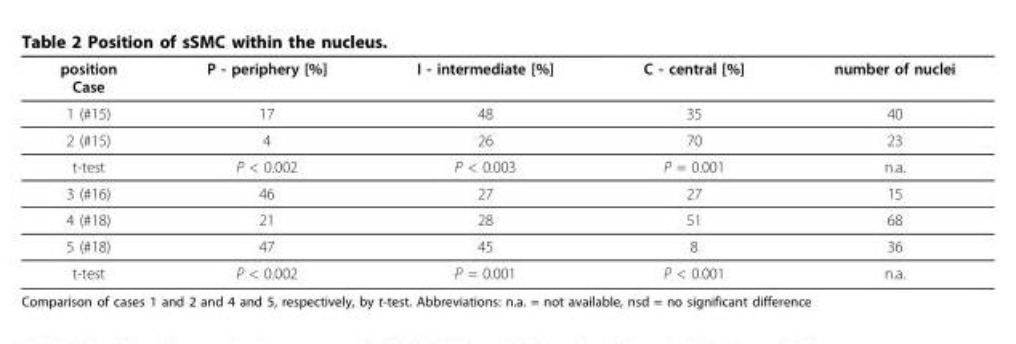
<table><thead><tr><td>position Case</td><td>P - periphery [%]</td><td>I - intermediate [%]</td><td>C - central [%]</td><td>number of nuclei</td></tr></thead><tbody><tr><td>1 (#15)</td><td>17</td><td>48</td><td>35</td><td>40</td></tr><tr><td>2 (#15)</td><td>4</td><td>26</td><td>70</td><td>23</td></tr><tr><td>t-test</td><td>P &lt; 0.002</td><td>P &lt; 0.003</td><td>P = 0.001</td><td>n.a.</td></tr><tr><td>3 (#16)</td><td>46</td><td>27</td><td>27</td><td>15</td></tr><tr><td>4 (#18)</td><td>21</td><td>28</td><td>51</td><td>68</td></tr><tr><td>5 (#18)</td><td>47</td><td>45</td><td>8</td><td>36</td></tr><tr><td>t-test</td><td>P &lt; 0.002</td><td>P = 0.001</td><td>P &lt; 0.001</td><td>n.a.</td></tr></tbody></table>